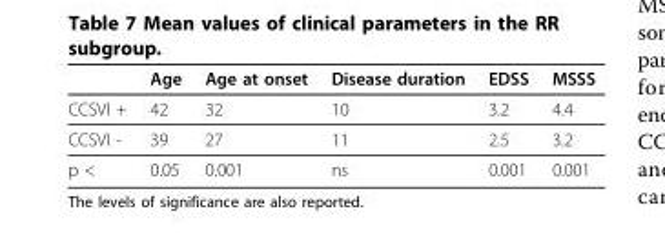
<table><thead><tr><td></td><td>Age</td><td>Age at onset</td><td>Disease duration</td><td>EDSS</td><td>MSSS</td></tr></thead><tbody><tr><td>CCSVI +</td><td>42</td><td>32</td><td>10</td><td>3.2</td><td>4.4</td></tr><tr><td>CCSVI -</td><td>39</td><td>27</td><td>11</td><td>2.5</td><td>3.2</td></tr><tr><td>p &lt;</td><td>0.05</td><td>0.001</td><td>ns</td><td>0.001</td><td>0.001</td></tr></tbody></table>